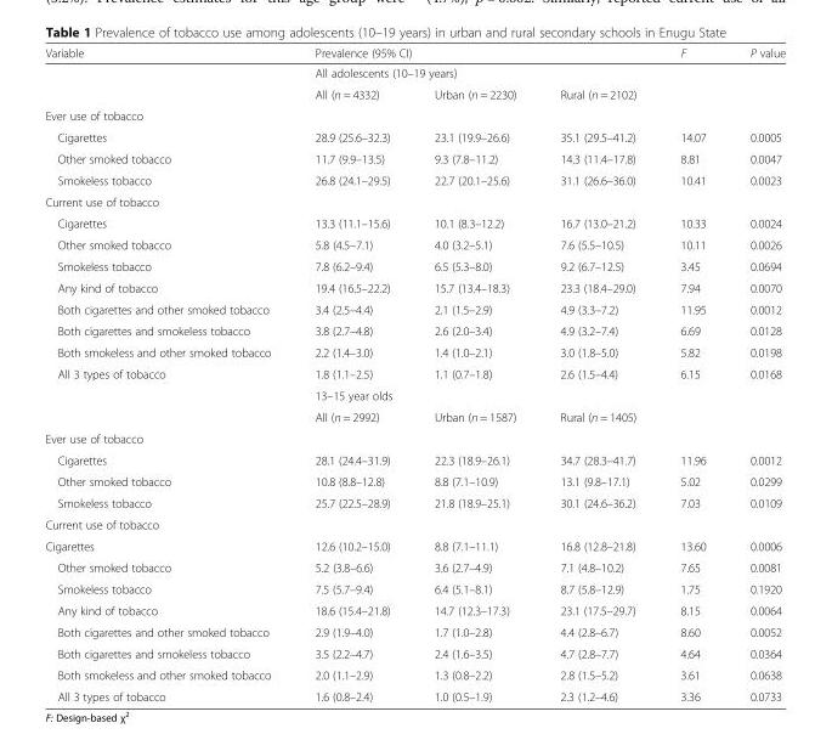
<table><thead><tr><td rowspan="3">Variable</td><td colspan="3">Prevalence (95% CI)</td><td>F</td><td>P value</td></tr><tr><td colspan="5">All adolescents (10–19 years)</td></tr><tr><td>All (n = 4332)</td><td>Urban (n = 2230)</td><td>Rural (n = 2102)</td><td></td><td></td></tr></thead><tbody><tr><td colspan="6">Ever use of tobacco</td></tr><tr><td>Cigarettes</td><td>28.9 (25.6–32.3)</td><td>23.1 (19.9–26.6)</td><td>35.1 (29.5–41.2)</td><td>14.07</td><td>0.0005</td></tr><tr><td>Other smoked tobacco</td><td>11.7 (9.9–13.5)</td><td>9.3 (7.8–11.2)</td><td>14.3 (11.4–17.8)</td><td>8.81</td><td>0.0047</td></tr><tr><td>Smokeless tobacco</td><td>26.8 (24.1–29.5)</td><td>22.7 (20.1–25.6)</td><td>31.1 (26.6–36.0)</td><td>10.41</td><td>0.0023</td></tr><tr><td colspan="6">Current use of tobacco</td></tr><tr><td>Cigarettes</td><td>13.3 (11.1–15.6)</td><td>10.1 (8.3–12.2)</td><td>16.7 (13.0–21.2)</td><td>10.33</td><td>0.0024</td></tr><tr><td>Other smoked tobacco</td><td>5.8 (4.5–7.1)</td><td>4.0 (3.2–5.1)</td><td>7.6 (5.5–10.5)</td><td>10.11</td><td>0.0026</td></tr><tr><td>Smokeless tobacco</td><td>7.8 (6.2–9.4)</td><td>6.5 (5.3–8.0)</td><td>9.2 (6.7–12.5)</td><td>3.45</td><td>0.0694</td></tr><tr><td>Any kind of tobacco</td><td>19.4 (16.5–22.2)</td><td>15.7 (13.4–18.3)</td><td>23.3 (18.4–29.0)</td><td>7.94</td><td>0.0070</td></tr><tr><td>Both cigarettes and other smoked tobacco</td><td>3.4 (2.5–4.4)</td><td>2.1 (1.5–2.9)</td><td>4.9 (3.3–7.2)</td><td>11.95</td><td>0.0012</td></tr><tr><td>Both cigarettes and smokeless tobacco</td><td>3.8 (2.7–4.8)</td><td>2.6 (2.0–3.4)</td><td>4.9 (3.2–7.4)</td><td>6.69</td><td>0.0128</td></tr><tr><td>Both smokeless and other smoked tobacco</td><td>2.2 (1.4–3.0)</td><td>1.4 (1.0–2.1)</td><td>3.0 (1.8–5.0)</td><td>5.82</td><td>0.0198</td></tr><tr><td rowspan="3">All 3 types of tobacco</td><td>1.8 (1.1–2.5)</td><td>1.1 (0.7–1.8)</td><td>2.6 (1.5–4.4)</td><td>6.15</td><td>0.0168</td></tr><tr><td colspan="5">13–15 year olds</td></tr><tr><td>All (n = 2992)</td><td>Urban (n = 1587)</td><td>Rural (n = 1405)</td><td></td><td></td></tr><tr><td colspan="6">Ever use of tobacco</td></tr><tr><td>Cigarettes</td><td>28.1 (24.4–31.9)</td><td>22.3 (18.9–26.1)</td><td>34.7 (28.3–41.7)</td><td>11.96</td><td>0.0012</td></tr><tr><td>Other smoked tobacco</td><td>10.8 (8.8–12.8)</td><td>8.8 (7.1–10.9)</td><td>13.1 (9.8–17.1)</td><td>5.02</td><td>0.0299</td></tr><tr><td>Smokeless tobacco</td><td>25.7 (22.5–28.9)</td><td>21.8 (18.9–25.1)</td><td>30.1 (24.6–36.2)</td><td>7.03</td><td>0.0109</td></tr><tr><td colspan="6">Current use of tobacco</td></tr><tr><td>Cigarettes</td><td>12.6 (10.2–15.0)</td><td>8.8 (7.1–11.1)</td><td>16.8 (12.8–21.8)</td><td>13.60</td><td>0.0006</td></tr><tr><td>Other smoked tobacco</td><td>5.2 (3.8–6.6)</td><td>3.6 (2.7–4.9)</td><td>7.1 (4.8–10.2)</td><td>7.65</td><td>0.0081</td></tr><tr><td>Smokeless tobacco</td><td>7.5 (5.7–9.4)</td><td>6.4 (5.1–8.1)</td><td>8.7 (5.8–12.9)</td><td>1.75</td><td>0.1920</td></tr><tr><td>Any kind of tobacco</td><td>18.6 (15.4–21.8)</td><td>14.7 (12.3–17.3)</td><td>23.1 (17.5–29.7)</td><td>8.15</td><td>0.0064</td></tr><tr><td>Both cigarettes and other smoked tobacco</td><td>2.9 (1.9–4.0)</td><td>1.7 (1.0–2.8)</td><td>4.4 (2.8–6.7)</td><td>8.60</td><td>0.0052</td></tr><tr><td>Both cigarettes and smokeless tobacco</td><td>3.5 (2.2–4.7)</td><td>2.4 (1.6–3.5)</td><td>4.7 (2.8–7.7)</td><td>4.64</td><td>0.0364</td></tr><tr><td>Both smokeless and other smoked tobacco</td><td>2.0 (1.1–2.9)</td><td>1.3 (0.8–2.2)</td><td>2.8 (1.5–5.2)</td><td>3.61</td><td>0.0638</td></tr><tr><td>All 3 types of tobacco</td><td>1.6 (0.8–2.4)</td><td>1.0 (0.5–1.9)</td><td>2.3 (1.2–4.6)</td><td>3.36</td><td>0.0733</td></tr></tbody></table>